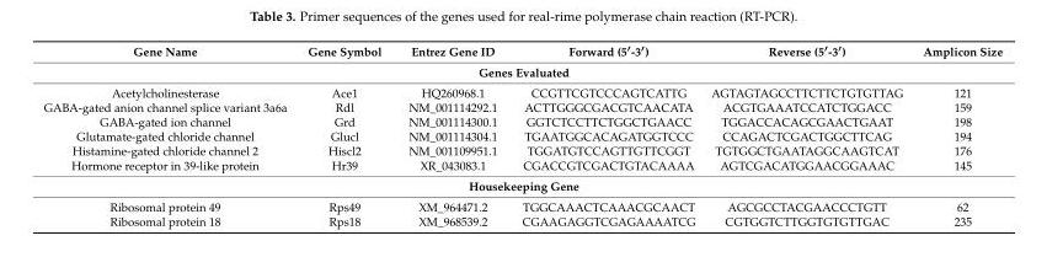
<table><thead><tr><td>Gene Name</td><td>Gene Symbol</td><td>Entrez Gene ID</td><td>Forward (5′-3′)</td><td>Reverse (5′-3′)</td><td>Amplicon Size</td></tr></thead><tbody><tr><td colspan="6">Genes Evaluated</td></tr><tr><td>Acetylcholinesterase</td><td>Ace1</td><td>HQ260968.1</td><td>CCGTTCGTCCCAGTCATTG</td><td>AGTAGTAGCCTTCTTCTGTGTTAG</td><td>121</td></tr><tr><td>GABA-gated anion channel splice variant 3a6a</td><td>Rdl</td><td>NM_001114292.1</td><td>ACTTGGGCGACGTCAACATA</td><td>ACGTGAAATCCATCTGGACC</td><td>159</td></tr><tr><td>GABA-gated ion channel</td><td>Grd</td><td>NM_001114300.1</td><td>GGTCTCCTTCTGGCTGAACC</td><td>TGGACCACAGCGAACTGAAT</td><td>198</td></tr><tr><td>Glutamate-gated chloride channel</td><td>Glucl</td><td>NM_001114304.1</td><td>TGAATGGCACAGATGGTCCC</td><td>CCAGACTCGACTGGCTTCAG</td><td>194</td></tr><tr><td>Histamine-gated chloride channel 2</td><td>Hiscl2</td><td>NM_001109951.1</td><td>TGGATGTCCAGTTGTTCGGT</td><td>TGTGGCTGAATAGGCAAGTCAT</td><td>176</td></tr><tr><td>Hormone receptor in 39-like protein</td><td>Hr39</td><td>XR_043083.1</td><td>CGACCGTCGACTGTACAAAA</td><td>AGTCGACATGGAACGGAAAC</td><td>145</td></tr><tr><td colspan="6">Housekeeping Gene</td></tr><tr><td>Ribosomal protein 49</td><td>Rps49</td><td>XM_964471.2</td><td>TGGCAAACTCAAACGCAACT</td><td>AGCGCCTACGAACCCTGTT</td><td>62</td></tr><tr><td>Ribosomal protein 18</td><td>Rps18</td><td>XM_968539.2</td><td>CGAAGAGGTCGAGAAAATCG</td><td>CGTGGTCTTGGTGTGTTGAC</td><td>235</td></tr></tbody></table>